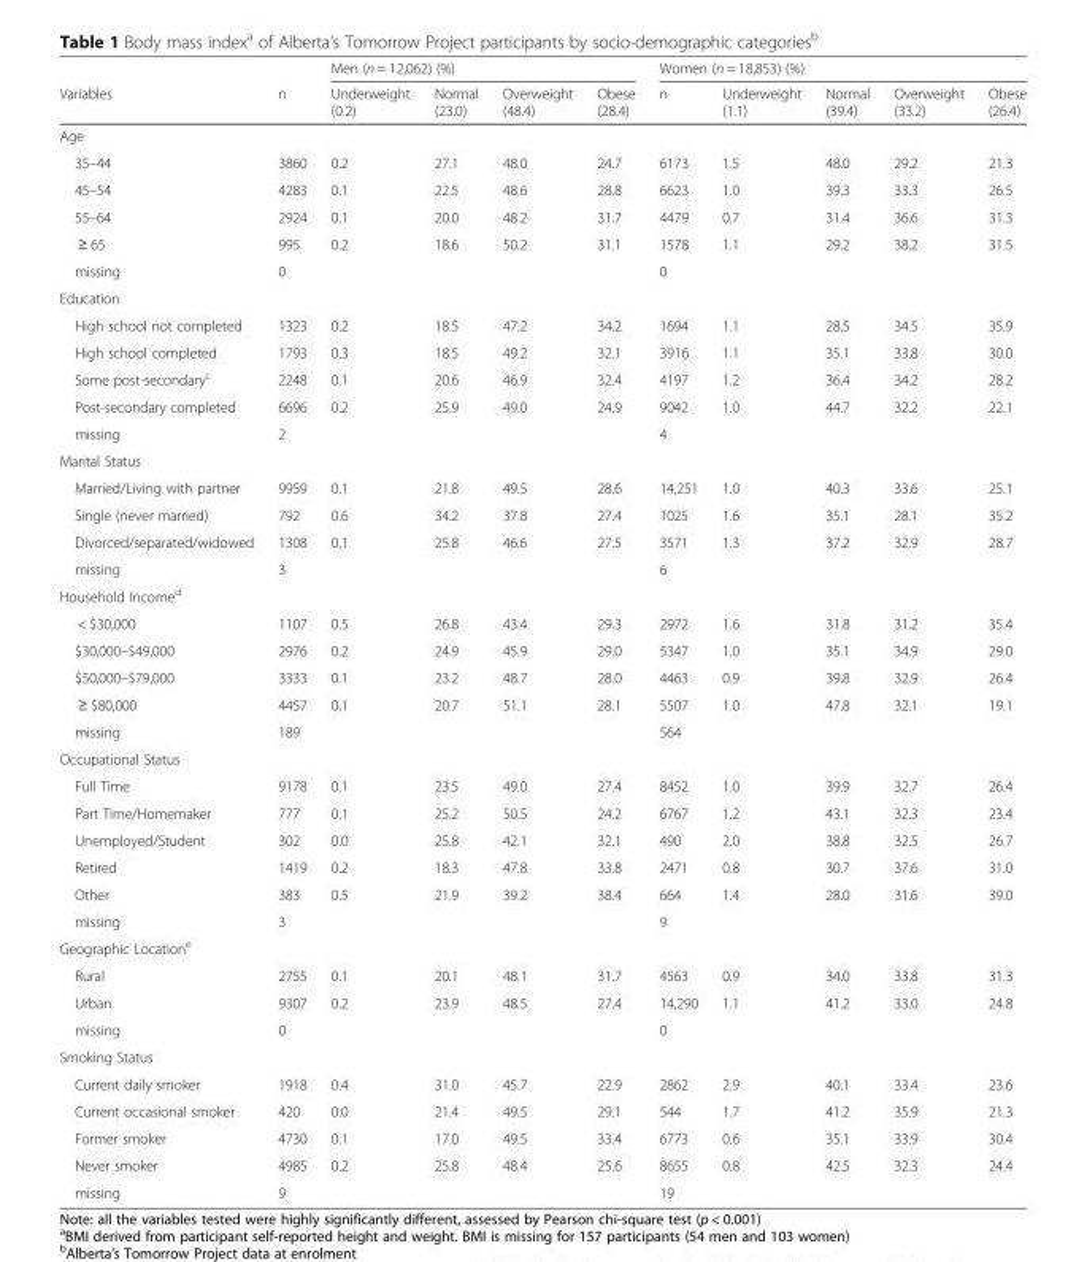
<table><thead><tr><td rowspan="2">Variables</td><td rowspan="2">n</td><td colspan="4">Men (n = 12,062) (%)</td><td colspan="5">Women (n = 18,853) (%)</td></tr><tr><td>Underweight (0.2)</td><td>Normal (23.0)</td><td>Overweight (48.4)</td><td>Obese (28.4)</td><td>n</td><td>Underweight (1.1)</td><td>Normal (39.4)</td><td>Overweight (33.2)</td><td>Obese (26.4)</td></tr></thead><tbody><tr><td colspan="11">Age</td></tr><tr><td>35–44</td><td>3860</td><td>0.2</td><td>27.1</td><td>48.0</td><td>24.7</td><td>6173</td><td>1.5</td><td>48.0</td><td>29.2</td><td>21.3</td></tr><tr><td>45–54</td><td>4283</td><td>0.1</td><td>22.5</td><td>48.6</td><td>28.8</td><td>6623</td><td>1.0</td><td>39.3</td><td>33.3</td><td>26.5</td></tr><tr><td>55–64</td><td>2924</td><td>0.1</td><td>20.0</td><td>48.2</td><td>31.7</td><td>4479</td><td>0.7</td><td>31.4</td><td>36.6</td><td>31.3</td></tr><tr><td>≥ 65</td><td>995</td><td>0.2</td><td>18.6</td><td>50.2</td><td>31.1</td><td>1578</td><td>1.1</td><td>29.2</td><td>38.2</td><td>31.5</td></tr><tr><td>missing</td><td>0</td><td></td><td></td><td></td><td></td><td>0</td><td></td><td></td><td></td><td></td></tr><tr><td colspan="11">Education</td></tr><tr><td>High school not completed</td><td>1323</td><td>0.2</td><td>18.5</td><td>47.2</td><td>34.2</td><td>1694</td><td>1.1</td><td>28.5</td><td>34.5</td><td>35.9</td></tr><tr><td>High school completed</td><td>1793</td><td>0.3</td><td>18.5</td><td>49.2</td><td>32.1</td><td>3916</td><td>1.1</td><td>35.1</td><td>33.8</td><td>30.0</td></tr><tr><td>Some post-secondary<sup>c</sup></td><td>2248</td><td>0.1</td><td>20.6</td><td>46.9</td><td>32.4</td><td>4197</td><td>1.2</td><td>36.4</td><td>34.2</td><td>28.2</td></tr><tr><td>Post-secondary completed</td><td>6696</td><td>0.2</td><td>25.9</td><td>49.0</td><td>24.9</td><td>9042</td><td>1.0</td><td>44.7</td><td>32.2</td><td>22.1</td></tr><tr><td>missing</td><td>2</td><td></td><td></td><td></td><td></td><td>4</td><td></td><td></td><td></td><td></td></tr><tr><td colspan="11">Marital Status</td></tr><tr><td>Married/Living with partner</td><td>9959</td><td>0.1</td><td>21.8</td><td>49.5</td><td>28.6</td><td>14,251</td><td>1.0</td><td>40.3</td><td>33.6</td><td>25.1</td></tr><tr><td>Single (never married)</td><td>792</td><td>0.6</td><td>34.2</td><td>37.8</td><td>27.4</td><td>1025</td><td>1.6</td><td>35.1</td><td>28.1</td><td>35.2</td></tr><tr><td>Divorced/separated/widowed</td><td>1308</td><td>0.1</td><td>25.8</td><td>46.6</td><td>27.5</td><td>3571</td><td>1.3</td><td>37.2</td><td>32.9</td><td>28.7</td></tr><tr><td>missing</td><td>3</td><td></td><td></td><td></td><td></td><td>6</td><td></td><td></td><td></td><td></td></tr><tr><td colspan="11">Household Income<sup>d</sup></td></tr><tr><td>&lt; $30,000</td><td>1107</td><td>0.5</td><td>26.8</td><td>43.4</td><td>29.3</td><td>2972</td><td>1.6</td><td>31.8</td><td>31.2</td><td>35.4</td></tr><tr><td>$30,000–$49,000</td><td>2976</td><td>0.2</td><td>24.9</td><td>45.9</td><td>29.0</td><td>5347</td><td>1.0</td><td>35.1</td><td>34.9</td><td>29.0</td></tr><tr><td>$50,000–$79,000</td><td>3333</td><td>0.1</td><td>23.2</td><td>48.7</td><td>28.0</td><td>4463</td><td>0.9</td><td>39.8</td><td>32.9</td><td>26.4</td></tr><tr><td>≥ $80,000</td><td>4457</td><td>0.1</td><td>20.7</td><td>51.1</td><td>28.1</td><td>5507</td><td>1.0</td><td>47.8</td><td>32.1</td><td>19.1</td></tr><tr><td>missing</td><td>189</td><td></td><td></td><td></td><td></td><td>564</td><td></td><td></td><td></td><td></td></tr><tr><td colspan="11">Occupational Status</td></tr><tr><td>Full Time</td><td>9178</td><td>0.1</td><td>23.5</td><td>49.0</td><td>27.4</td><td>8452</td><td>1.0</td><td>39.9</td><td>32.7</td><td>26.4</td></tr><tr><td>Part Time/Homemaker</td><td>777</td><td>0.1</td><td>25.2</td><td>50.5</td><td>24.2</td><td>6767</td><td>1.2</td><td>43.1</td><td>32.3</td><td>23.4</td></tr><tr><td>Unemployed/Student</td><td>302</td><td>0.0</td><td>25.8</td><td>42.1</td><td>32.1</td><td>490</td><td>2.0</td><td>38.8</td><td>32.5</td><td>26.7</td></tr><tr><td>Retired</td><td>1419</td><td>0.2</td><td>18.3</td><td>47.8</td><td>33.8</td><td>2471</td><td>0.8</td><td>30.7</td><td>37.6</td><td>31.0</td></tr><tr><td>Other</td><td>383</td><td>0.5</td><td>21.9</td><td>39.2</td><td>38.4</td><td>664</td><td>1.4</td><td>28.0</td><td>31.6</td><td>39.0</td></tr><tr><td>missing</td><td>3</td><td></td><td></td><td></td><td></td><td>9</td><td></td><td></td><td></td><td></td></tr><tr><td colspan="11">Geographic Location<sup>e</sup></td></tr><tr><td>Rural</td><td>2755</td><td>0.1</td><td>20.1</td><td>48.1</td><td>31.7</td><td>4563</td><td>0.9</td><td>34.0</td><td>33.8</td><td>31.3</td></tr><tr><td>Urban</td><td>9307</td><td>0.2</td><td>23.9</td><td>48.5</td><td>27.4</td><td>14,290</td><td>1.1</td><td>41.2</td><td>33.0</td><td>24.8</td></tr><tr><td>missing</td><td>0</td><td></td><td></td><td></td><td></td><td>0</td><td></td><td></td><td></td><td></td></tr><tr><td colspan="11">Smoking Status</td></tr><tr><td>Current daily smoker</td><td>1918</td><td>0.4</td><td>31.0</td><td>45.7</td><td>22.9</td><td>2862</td><td>2.9</td><td>40.1</td><td>33.4</td><td>23.6</td></tr><tr><td>Current occasional smoker</td><td>420</td><td>0.0</td><td>21.4</td><td>49.5</td><td>29.1</td><td>544</td><td>1.7</td><td>41.2</td><td>35.9</td><td>21.3</td></tr><tr><td>Former smoker</td><td>4730</td><td>0.1</td><td>17.0</td><td>49.5</td><td>33.4</td><td>6773</td><td>0.6</td><td>35.1</td><td>33.9</td><td>30.4</td></tr><tr><td>Never smoker</td><td>4985</td><td>0.2</td><td>25.8</td><td>48.4</td><td>25.6</td><td>8655</td><td>0.8</td><td>42.5</td><td>32.3</td><td>24.4</td></tr><tr><td>missing</td><td>9</td><td></td><td></td><td></td><td></td><td>19</td><td></td><td></td><td></td><td></td></tr></tbody></table>